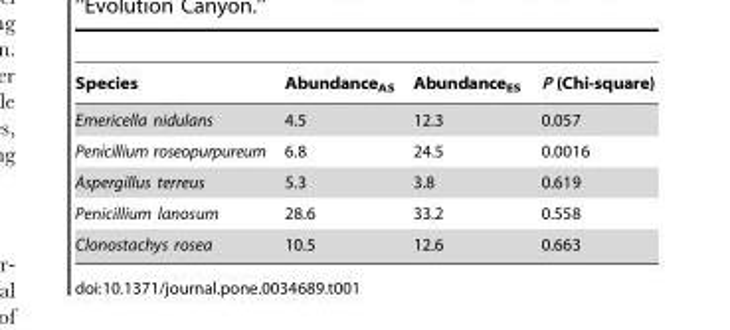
<table><thead><tr><td>Species</td><td>Abundance<sub>AS</sub></td><td>Abundance<sub>ES</sub></td><td>P (Chi-square)</td></tr></thead><tbody><tr><td>Emericella nidulans</td><td>4.5</td><td>12.3</td><td>0.057</td></tr><tr><td>Penicillium roseopurpureum</td><td>6.8</td><td>24.5</td><td>0.0016</td></tr><tr><td>Aspergillus terreus</td><td>5.3</td><td>3.8</td><td>0.619</td></tr><tr><td>Penicillium lanosum</td><td>28.6</td><td>33.2</td><td>0.558</td></tr><tr><td>Clonostachys rosea</td><td>10.5</td><td>12.6</td><td>0.663</td></tr></tbody></table>